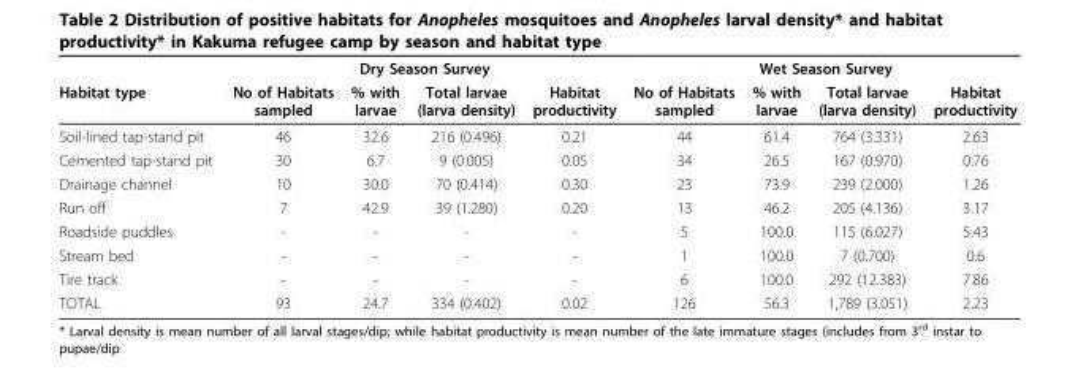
<table><thead><tr><td rowspan="2">Habitat type</td><td colspan="4">Dry Season Survey</td><td colspan="4">Wet Season Survey</td></tr><tr><td>No of Habitats sampled</td><td>% with larvae</td><td>Total larvae (larva density)</td><td>Habitat productivity</td><td>No of Habitats sampled</td><td>% with larvae</td><td>Total larvae (larva density)</td><td>Habitat productivity</td></tr></thead><tbody><tr><td>Soil-lined tap-stand pit</td><td>46</td><td>32.6</td><td>216 (0.496)</td><td>0.21</td><td>44</td><td>61.4</td><td>764 (3.331)</td><td>2.63</td></tr><tr><td>Cemented tap-stand pit</td><td>30</td><td>6.7</td><td>9 (0.005)</td><td>0.05</td><td>34</td><td>26.5</td><td>167 (0.970)</td><td>0.76</td></tr><tr><td>Drainage channel</td><td>10</td><td>30.0</td><td>70 (0.414)</td><td>0.30</td><td>23</td><td>73.9</td><td>239 (2.000)</td><td>1.26</td></tr><tr><td>Run off</td><td>7</td><td>42.9</td><td>39 (1.280)</td><td>0.20</td><td>13</td><td>46.2</td><td>205 (4.136)</td><td>3.17</td></tr><tr><td>Roadside puddles</td><td>-</td><td>-</td><td>-</td><td>-</td><td>5</td><td>100.0</td><td>115 (6.027)</td><td>5.43</td></tr><tr><td>Stream bed</td><td>-</td><td>-</td><td>-</td><td>-</td><td>1</td><td>100.0</td><td>7 (0.700)</td><td>0.6</td></tr><tr><td>Tire track</td><td>-</td><td>-</td><td>-</td><td>-</td><td>6</td><td>100.0</td><td>292 (12.383)</td><td>7.86</td></tr><tr><td>TOTAL</td><td>93</td><td>24.7</td><td>334 (0.402)</td><td>0.02</td><td>126</td><td>56.3</td><td>1,789 (3.051)</td><td>2.23</td></tr></tbody></table>